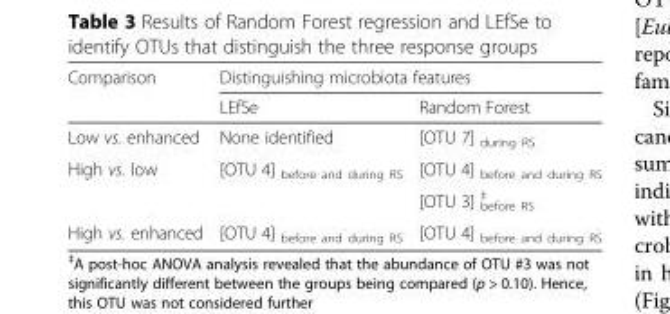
<table><thead><tr><td rowspan="2">Comparison</td><td colspan="2">Distinguishing microbiota features</td></tr><tr><td>LEfSe</td><td>Random Forest</td></tr></thead><tbody><tr><td>Low vs. enhanced</td><td>None identified</td><td>[OTU 7] <sub>during RS</sub></td></tr><tr><td rowspan="2">High vs. low</td><td rowspan="2">[OTU 4] <sub>before and during RS</sub></td><td>[OTU 4] <sub>before and during RS</sub></td></tr><tr><td>[OTU 3] <sub>before RS</sub> <sup>‡</sup></td></tr><tr><td>High vs. enhanced</td><td>[OTU 4] <sub>before and during RS</sub></td><td>[OTU 4] <sub>before and during RS</sub></td></tr></tbody></table>